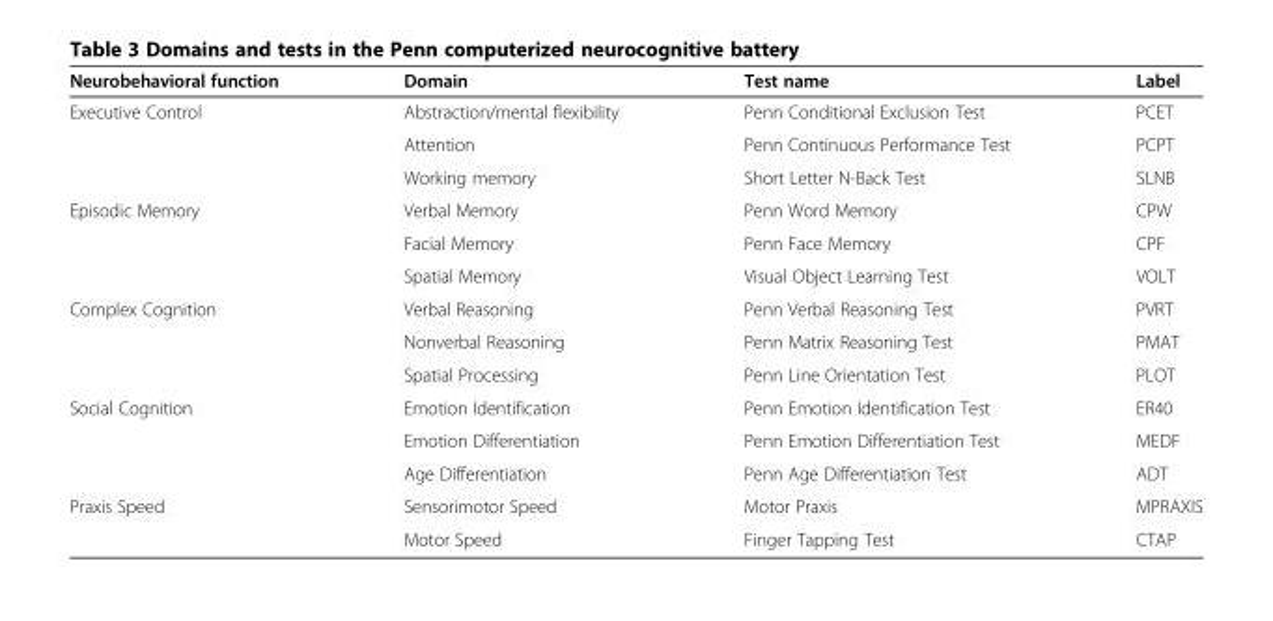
<table><thead><tr><td>Neurobehavioral function</td><td>Domain</td><td>Test name</td><td>Label</td></tr></thead><tbody><tr><td rowspan="3">Executive Control</td><td>Abstraction/mental flexibility</td><td>Penn Conditional Exclusion Test</td><td>PCET</td></tr><tr><td>Attention</td><td>Penn Continuous Performance Test</td><td>PCPT</td></tr><tr><td>Working memory</td><td>Short Letter N-Back Test</td><td>SLNB</td></tr><tr><td rowspan="3">Episodic Memory</td><td>Verbal Memory</td><td>Penn Word Memory</td><td>CPW</td></tr><tr><td>Facial Memory</td><td>Penn Face Memory</td><td>CPF</td></tr><tr><td>Spatial Memory</td><td>Visual Object Learning Test</td><td>VOLT</td></tr><tr><td rowspan="3">Complex Cognition</td><td>Verbal Reasoning</td><td>Penn Verbal Reasoning Test</td><td>PVRT</td></tr><tr><td>Nonverbal Reasoning</td><td>Penn Matrix Reasoning Test</td><td>PMAT</td></tr><tr><td>Spatial Processing</td><td>Penn Line Orientation Test</td><td>PLOT</td></tr><tr><td rowspan="3">Social Cognition</td><td>Emotion Identification</td><td>Penn Emotion Identification Test</td><td>ER40</td></tr><tr><td>Emotion Differentiation</td><td>Penn Emotion Differentiation Test</td><td>MEDF</td></tr><tr><td>Age Differentiation</td><td>Penn Age Differentiation Test</td><td>ADT</td></tr><tr><td rowspan="2">Praxis Speed</td><td>Sensorimotor Speed</td><td>Motor Praxis</td><td>MPRAXIS</td></tr><tr><td>Motor Speed</td><td>Finger Tapping Test</td><td>CTAP</td></tr></tbody></table>